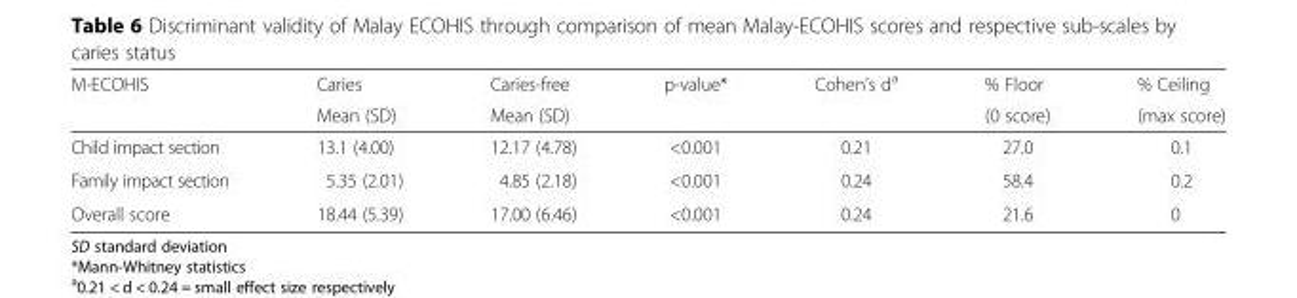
<table><thead><tr><td rowspan="2">M-ECOHIS</td><td rowspan="2">Caries Mean (SD)</td><td rowspan="2">Caries-free Mean (SD)</td><td rowspan="2">p-value*</td><td rowspan="2">Cohen’s d<sup>a</sup></td><td rowspan="2">% Floor (0 score)</td><td rowspan="2">% Ceiling (max score)</td></tr><tr></tr></thead><tbody><tr><td>Child impact section</td><td>13.1 (4.00)</td><td>12.17 (4.78)</td><td>&lt;0.001</td><td>0.21</td><td>27.0</td><td>0.1</td></tr><tr><td>Family impact section</td><td>5.35 (2.01)</td><td>4.85 (2.18)</td><td>&lt;0.001</td><td>0.24</td><td>58.4</td><td>0.2</td></tr><tr><td>Overall score</td><td>18.44 (5.39)</td><td>17.00 (6.46)</td><td>&lt;0.001</td><td>0.24</td><td>21.6</td><td>0</td></tr></tbody></table>